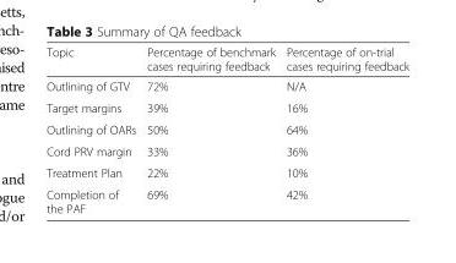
<table><thead><tr><td>Topic</td><td>Percentage of benchmark cases requiring feedback</td><td>Percentage of on-trial cases requiring feedback</td></tr></thead><tbody><tr><td>Outlining of GTV</td><td>72%</td><td>N/A</td></tr><tr><td>Target margins</td><td>39%</td><td>16%</td></tr><tr><td>Outlining of OARs</td><td>50%</td><td>64%</td></tr><tr><td>Cord PRV margin</td><td>33%</td><td>36%</td></tr><tr><td>Treatment Plan</td><td>22%</td><td>10%</td></tr><tr><td>Completion of the PAF</td><td>69%</td><td>42%</td></tr></tbody></table>